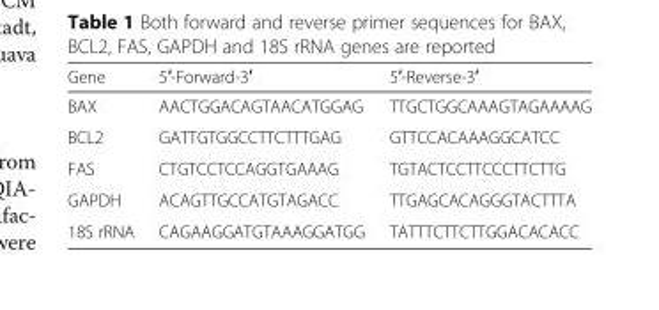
<table><thead><tr><td>Gene</td><td>5′-Forward-3′</td><td>5′-Reverse-3′</td></tr></thead><tbody><tr><td>BAX</td><td>AACTGGACAGTAACATGGAG</td><td>TTGCTGGCAAAGTAGAAAAG</td></tr><tr><td>BCL2</td><td>GATTGTGGCCTTCTTTGAG</td><td>GTTCCACAAAGGCATCC</td></tr><tr><td>FAS</td><td>CTGTCCTCCAGGTGAAAG</td><td>TGTACTCCTTCCCTTCTTG</td></tr><tr><td>GAPDH</td><td>ACAGTTGCCATGTAGACC</td><td>TTGAGCACAGGGTACTTTA</td></tr><tr><td>18S rRNA</td><td>CAGAAGGATGTAAAGGATGG</td><td>TATTTCTTCTTGGACACACC</td></tr></tbody></table>